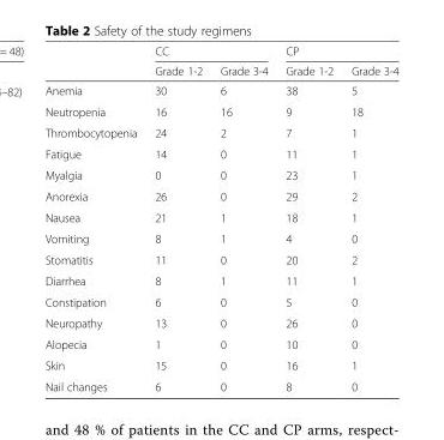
<table><thead><tr><td rowspan="2"></td><td colspan="2">CC</td><td colspan="2">CP</td></tr><tr><td>Grade 1-2</td><td>Grade 3-4</td><td>Grade 1-2</td><td>Grade 3-4</td></tr></thead><tbody><tr><td>Anemia</td><td>30</td><td>6</td><td>38</td><td>5</td></tr><tr><td>Neutropenia</td><td>16</td><td>16</td><td>9</td><td>18</td></tr><tr><td>Thrombocytopenia</td><td>24</td><td>2</td><td>7</td><td>1</td></tr><tr><td>Fatigue</td><td>14</td><td>0</td><td>11</td><td>1</td></tr><tr><td>Myalgia</td><td>0</td><td>0</td><td>23</td><td>1</td></tr><tr><td>Anorexia</td><td>26</td><td>0</td><td>29</td><td>2</td></tr><tr><td>Nausea</td><td>21</td><td>1</td><td>18</td><td>1</td></tr><tr><td>Vomiting</td><td>8</td><td>1</td><td>4</td><td>0</td></tr><tr><td>Stomatitis</td><td>11</td><td>0</td><td>20</td><td>2</td></tr><tr><td>Diarrhea</td><td>8</td><td>1</td><td>11</td><td>1</td></tr><tr><td>Constipation</td><td>6</td><td>0</td><td>5</td><td>0</td></tr><tr><td>Neuropathy</td><td>13</td><td>0</td><td>26</td><td>0</td></tr><tr><td>Alopecia</td><td>1</td><td>0</td><td>10</td><td>0</td></tr><tr><td>Skin</td><td>15</td><td>0</td><td>16</td><td>1</td></tr><tr><td>Nail changes</td><td>6</td><td>0</td><td>8</td><td>0</td></tr></tbody></table>